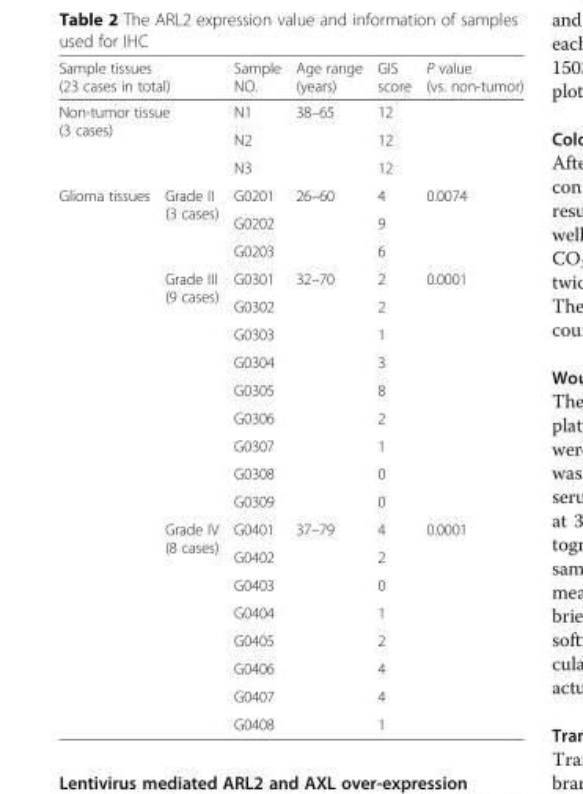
<table><thead><tr><td colspan="2">Sample tissues (23 cases in total)</td><td>Sample NO.</td><td>Age range (years)</td><td>GIS score</td><td>P value (vs. non-tumor)</td></tr></thead><tbody><tr><td rowspan="3" colspan="2">Non-tumor tissue (3 cases)</td><td>N1</td><td rowspan="3">38–65</td><td>12</td><td rowspan="3"></td></tr><tr><td>N2</td><td>12</td></tr><tr><td>N3</td><td>12</td></tr><tr><td rowspan="20">Glioma tissues</td><td rowspan="3">Grade II (3 cases)</td><td>G0201</td><td rowspan="3">26–60</td><td>4</td><td rowspan="3">0.0074</td></tr><tr><td>G0202</td><td>9</td></tr><tr><td>G0203</td><td>6</td></tr><tr><td rowspan="9">Grade III (9 cases)</td><td>G0301</td><td rowspan="9">32–70</td><td>2</td><td rowspan="9">0.0001</td></tr><tr><td>G0302</td><td>2</td></tr><tr><td>G0303</td><td>1</td></tr><tr><td>G0304</td><td>3</td></tr><tr><td>G0305</td><td>8</td></tr><tr><td>G0306</td><td>2</td></tr><tr><td>G0307</td><td>1</td></tr><tr><td>G0308</td><td>0</td></tr><tr><td>G0309</td><td>0</td></tr><tr><td rowspan="8">Grade IV (8 cases)</td><td>G0401</td><td rowspan="8">37–79</td><td>4</td><td rowspan="8">0.0001</td></tr><tr><td>G0402</td><td>2</td></tr><tr><td>G0403</td><td>0</td></tr><tr><td>G0404</td><td>1</td></tr><tr><td>G0405</td><td>2</td></tr><tr><td>G0406</td><td>4</td></tr><tr><td>G0407</td><td>4</td></tr><tr><td>G0408</td><td>1</td></tr></tbody></table>